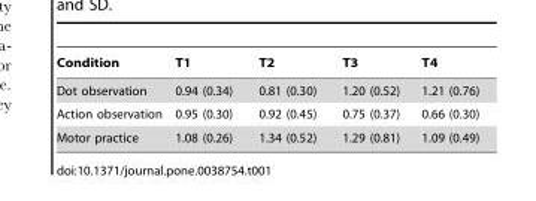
<table><thead><tr><td>Condition</td><td>T1</td><td>T2</td><td>T3</td><td>T4</td></tr></thead><tbody><tr><td>Dot observation</td><td>0.94 (0.34)</td><td>0.81 (0.30)</td><td>1.20 (0.52)</td><td>1.21 (0.76)</td></tr><tr><td>Action observation</td><td>0.95 (0.30)</td><td>0.92 (0.45)</td><td>0.75 (0.37)</td><td>0.66 (0.30)</td></tr><tr><td>Motor practice</td><td>1.08 (0.26)</td><td>1.34 (0.52)</td><td>1.29 (0.81)</td><td>1.09 (0.49)</td></tr></tbody></table>